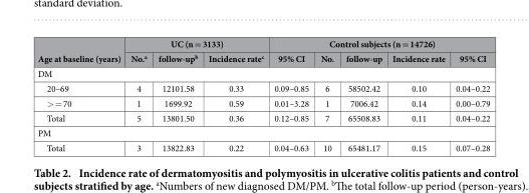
<table><thead><tr><td rowspan="2">Age at baseline (years)</td><td colspan="3">UC (n = 3133)</td><td colspan="5">Control subjects (n = 14726)</td></tr><tr><td>No.<sup>a</sup></td><td>follow-up<sup>b</sup></td><td>Incidence rate<sup>c</sup></td><td>95% CI</td><td>No.</td><td>follow-up</td><td>Incidence rate</td><td>95% CI</td></tr></thead><tbody><tr><td colspan="9">DM</td></tr><tr><td>20–69</td><td>4</td><td>12101.58</td><td>0.33</td><td>0.09–0.85</td><td>6</td><td>58502.42</td><td>0.10</td><td>0.04–0.22</td></tr><tr><td>&gt; = 70</td><td>1</td><td>1699.92</td><td>0.59</td><td>0.01–3.28</td><td>1</td><td>7006.42</td><td>0.14</td><td>0.00–0.79</td></tr><tr><td>Total</td><td>5</td><td>13801.50</td><td>0.36</td><td>0.12–0.85</td><td>7</td><td>65508.83</td><td>0.11</td><td>0.04–0.22</td></tr><tr><td colspan="9">PM</td></tr><tr><td>Total</td><td>3</td><td>13822.83</td><td>0.22</td><td>0.04–0.63</td><td>10</td><td>65481.17</td><td>0.15</td><td>0.07–0.28</td></tr></tbody></table>